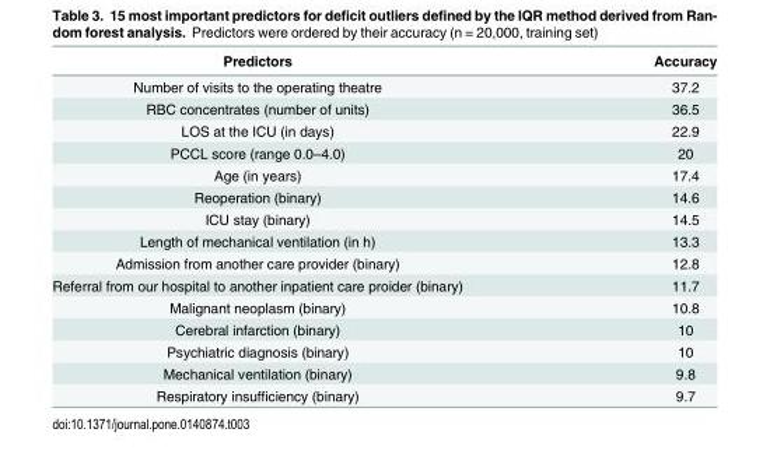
<table><thead><tr><td>Predictors</td><td>Accuracy</td></tr></thead><tbody><tr><td>Number of visits to the operating theatre</td><td>37.2</td></tr><tr><td>RBC concentrates (number of units)</td><td>36.5</td></tr><tr><td>LOS at the ICU (in days)</td><td>22.9</td></tr><tr><td>PCCL score (range 0.0–4.0)</td><td>20</td></tr><tr><td>Age (in years)</td><td>17.4</td></tr><tr><td>Reoperation (binary)</td><td>14.6</td></tr><tr><td>ICU stay (binary)</td><td>14.5</td></tr><tr><td>Length of mechanical ventilation (in h)</td><td>13.3</td></tr><tr><td>Admission from another care provider (binary)</td><td>12.8</td></tr><tr><td>Referral from our hospital to another inpatient care proider (binary)</td><td>11.7</td></tr><tr><td>Malignant neoplasm (binary)</td><td>10.8</td></tr><tr><td>Cerebral infarction (binary)</td><td>10</td></tr><tr><td>Psychiatric diagnosis (binary)</td><td>10</td></tr><tr><td>Mechanical ventilation (binary)</td><td>9.8</td></tr><tr><td>Respiratory insufficiency (binary)</td><td>9.7</td></tr></tbody></table>